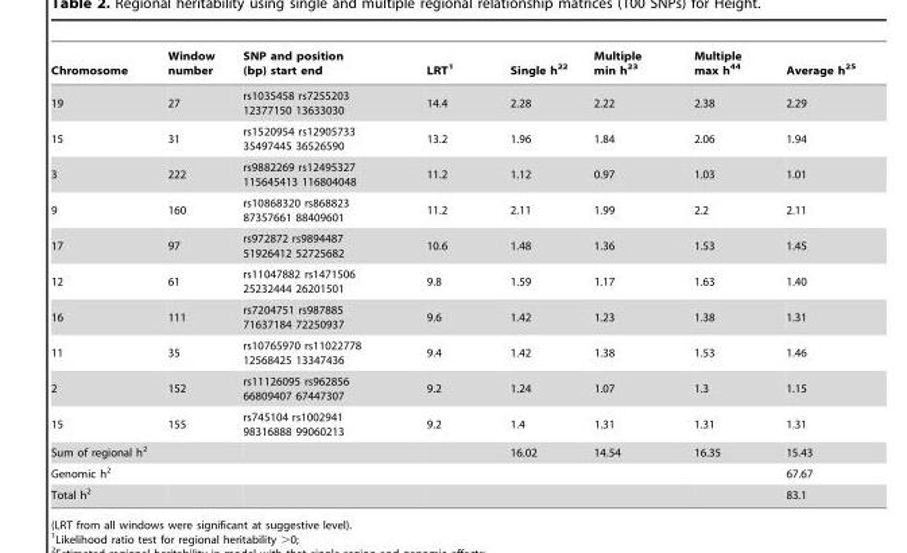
<table><thead><tr><td>Chromosome</td><td>Window number</td><td>SNP and position (bp) start end</td><td>LRT<sup>1</sup></td><td>Single h<sup>22</sup></td><td>Multiple min h<sup>23</sup></td><td>Multiple max h<sup>44</sup></td><td>Average h<sup>25</sup></td></tr></thead><tbody><tr><td>19</td><td>27</td><td>rs1035458 rs7255203 12377150 13633030</td><td>14.4</td><td>2.28</td><td>2.22</td><td>2.38</td><td>2.29</td></tr><tr><td>15</td><td>31</td><td>rs1520954 rs12905733 35497445 36526590</td><td>13.2</td><td>1.96</td><td>1.84</td><td>2.06</td><td>1.94</td></tr><tr><td>3</td><td>222</td><td>rs9882269 rs12495327 115645413 116804048</td><td>11.2</td><td>1.12</td><td>0.97</td><td>1.03</td><td>1.01</td></tr><tr><td>9</td><td>160</td><td>rs10868320 rs868823 87357661 88409601</td><td>11.2</td><td>2.11</td><td>1.99</td><td>2.2</td><td>2.11</td></tr><tr><td>17</td><td>97</td><td>rs972872 rs9894487 51926412 52725682</td><td>10.6</td><td>1.48</td><td>1.36</td><td>1.53</td><td>1.45</td></tr><tr><td>12</td><td>61</td><td>rs11047882 rs1471506 25232444 26201501</td><td>9.8</td><td>1.59</td><td>1.17</td><td>1.63</td><td>1.40</td></tr><tr><td>16</td><td>111</td><td>rs7204751 rs987885 71637184 72250937</td><td>9.6</td><td>1.42</td><td>1.23</td><td>1.38</td><td>1.31</td></tr><tr><td>11</td><td>35</td><td>rs10765970 rs11022778 12568425 13347436</td><td>9.4</td><td>1.42</td><td>1.38</td><td>1.53</td><td>1.46</td></tr><tr><td>2</td><td>152</td><td>rs11126095 rs962856 66809407 67447307</td><td>9.2</td><td>1.24</td><td>1.07</td><td>1.3</td><td>1.15</td></tr><tr><td>15</td><td>155</td><td>rs745104 rs1002941 98316888 99060213</td><td>9.2</td><td>1.4</td><td>1.31</td><td>1.31</td><td>1.31</td></tr><tr><td colspan="2">Sum of regional h<sup>2</sup></td><td></td><td></td><td>16.02</td><td>14.54</td><td>16.35</td><td>15.43</td></tr><tr><td>Genomic h<sup>2</sup></td><td></td><td></td><td></td><td></td><td></td><td></td><td>67.67</td></tr><tr><td>Total h<sup>2</sup></td><td></td><td></td><td></td><td></td><td></td><td></td><td>83.1</td></tr></tbody></table>